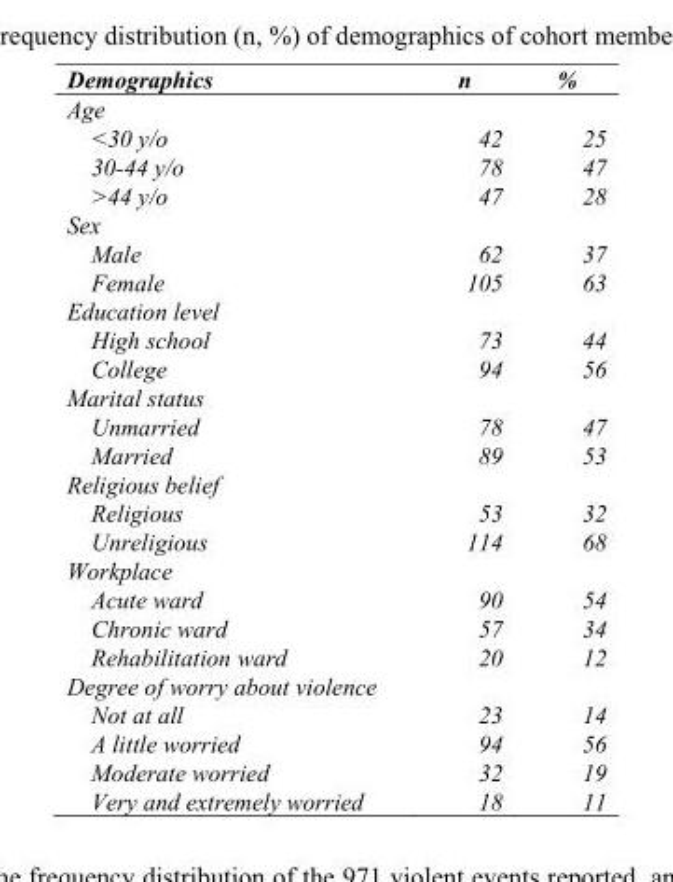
<table><thead><tr><td>Demographics</td><td>n</td><td>%</td></tr></thead><tbody><tr><td colspan="3">Age</td></tr><tr><td>&lt;30 y/o</td><td>42</td><td>25</td></tr><tr><td>30-44 y/o</td><td>78</td><td>47</td></tr><tr><td>&gt;44 y/o</td><td>47</td><td>28</td></tr><tr><td colspan="3">Sex</td></tr><tr><td>Male</td><td>62</td><td>37</td></tr><tr><td>Female</td><td>105</td><td>63</td></tr><tr><td colspan="3">Education level</td></tr><tr><td>High school</td><td>73</td><td>44</td></tr><tr><td>College</td><td>94</td><td>56</td></tr><tr><td colspan="3">Marital status</td></tr><tr><td>Unmarried</td><td>78</td><td>47</td></tr><tr><td>Married</td><td>89</td><td>53</td></tr><tr><td colspan="3">Religious belief</td></tr><tr><td>Religious</td><td>53</td><td>32</td></tr><tr><td>Unreligious</td><td>114</td><td>68</td></tr><tr><td colspan="3">Workplace</td></tr><tr><td>Acute ward</td><td>90</td><td>54</td></tr><tr><td>Chronic ward</td><td>57</td><td>34</td></tr><tr><td>Rehabilitation ward</td><td>20</td><td>12</td></tr><tr><td colspan="3">Degree of worry about violence</td></tr><tr><td>Not at all</td><td>23</td><td>14</td></tr><tr><td>A little worried</td><td>94</td><td>56</td></tr><tr><td>Moderate worried</td><td>32</td><td>19</td></tr><tr><td>Very and extremely worried</td><td>18</td><td>11</td></tr></tbody></table>